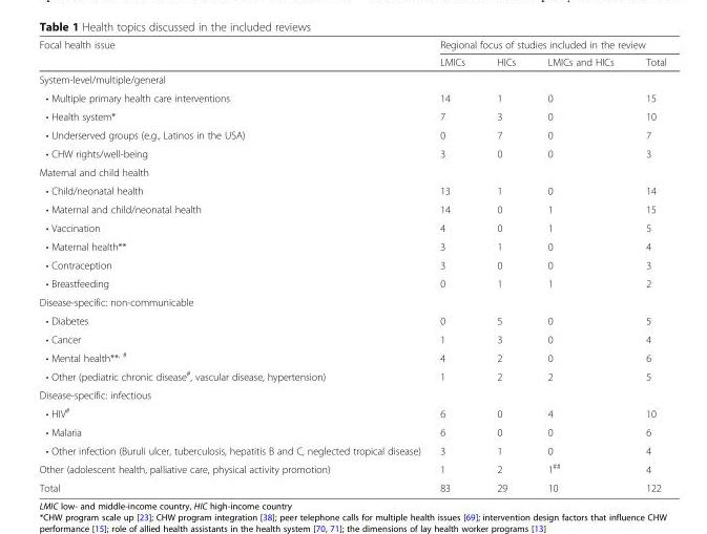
<table><thead><tr><td rowspan="2">Focal health issue</td><td colspan="4">Regional focus of studies included in the review</td></tr><tr><td>LMICs</td><td>HICs</td><td>LMICs and HICs</td><td>Total</td></tr></thead><tbody><tr><td colspan="5">System-level/multiple/general</td></tr><tr><td>• Multiple primary health care interventions</td><td>14</td><td>1</td><td>0</td><td>15</td></tr><tr><td>• Health system*</td><td>7</td><td>3</td><td>0</td><td>10</td></tr><tr><td>• Underserved groups (e.g., Latinos in the USA)</td><td>0</td><td>7</td><td>0</td><td>7</td></tr><tr><td>• CHW rights/well-being</td><td>3</td><td>0</td><td>0</td><td>3</td></tr><tr><td colspan="5">Maternal and child health</td></tr><tr><td>• Child/neonatal health</td><td>13</td><td>1</td><td>0</td><td>14</td></tr><tr><td>• Maternal and child/neonatal health</td><td>14</td><td>0</td><td>1</td><td>15</td></tr><tr><td>• Vaccination</td><td>4</td><td>0</td><td>1</td><td>5</td></tr><tr><td>• Maternal health**</td><td>3</td><td>1</td><td>0</td><td>4</td></tr><tr><td>• Contraception</td><td>3</td><td>0</td><td>0</td><td>3</td></tr><tr><td>• Breastfeeding</td><td>0</td><td>1</td><td>1</td><td>2</td></tr><tr><td colspan="5">Disease-specific: non-communicable</td></tr><tr><td>• Diabetes</td><td>0</td><td>5</td><td>0</td><td>5</td></tr><tr><td>• Cancer</td><td>1</td><td>3</td><td>0</td><td>4</td></tr><tr><td>• Mental health**<sup>, #</sup></td><td>4</td><td>2</td><td>0</td><td>6</td></tr><tr><td>• Other (pediatric chronic disease<sup>#</sup>, vascular disease, hypertension)</td><td>1</td><td>2</td><td>2</td><td>5</td></tr><tr><td colspan="5">Disease-specific: infectious</td></tr><tr><td>• HIV<sup>#</sup></td><td>6</td><td>0</td><td>4</td><td>10</td></tr><tr><td>• Malaria</td><td>6</td><td>0</td><td>0</td><td>6</td></tr><tr><td>• Other infection (Buruli ulcer, tuberculosis, hepatitis B and C, neglected tropical disease)</td><td>3</td><td>1</td><td>0</td><td>4</td></tr><tr><td>Other (adolescent health, palliative care, physical activity promotion)</td><td>1</td><td>2</td><td>1<sup>##</sup></td><td>4</td></tr><tr><td>Total</td><td>83</td><td>29</td><td>10</td><td>122</td></tr></tbody></table>